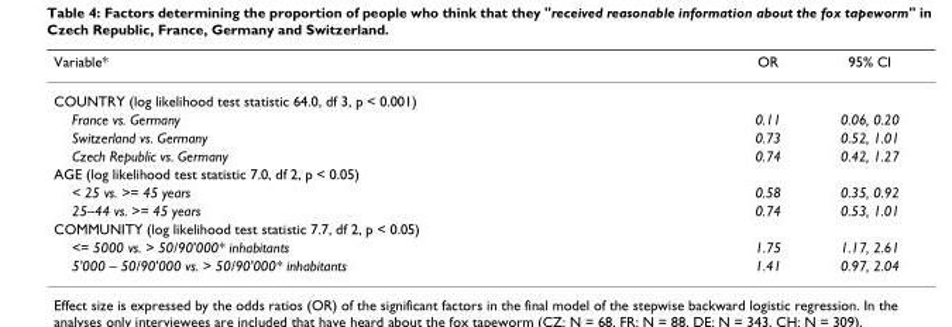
<table><thead><tr><td>Variable*</td><td>OR</td><td>95% CI</td></tr></thead><tbody><tr><td colspan="3">COUNTRY (log likelihood test statistic 64.0, df 3, p &lt; 0.001)</td></tr><tr><td>France vs. Germany</td><td>0.11</td><td>0.06, 0.20</td></tr><tr><td>Switzerland vs. Germany</td><td>0.73</td><td>0.52, 1.01</td></tr><tr><td>Czech Republic vs. Germany</td><td>0.74</td><td>0.42, 1.27</td></tr><tr><td colspan="3">AGE (log likelihood test statistic 7.0, df 2, p &lt; 0.05)</td></tr><tr><td>&lt; 25 vs. &gt;= 45 years</td><td>0.58</td><td>0.35, 0.92</td></tr><tr><td>25–44 vs. &gt;= 45 years</td><td>0.74</td><td>0.53, 1.01</td></tr><tr><td colspan="3">COMMUNITY (log likelihood test statistic 7.7, df 2, p &lt; 0.05)</td></tr><tr><td>&lt;= 5000 vs. &gt; 50/90&#x27;000* inhabitants</td><td>1.75</td><td>1.17, 2.61</td></tr><tr><td>5&#x27;000 – 50/90&#x27;000 vs. &gt; 50/90&#x27;000* inhabitants</td><td>1.41</td><td>0.97, 2.04</td></tr></tbody></table>